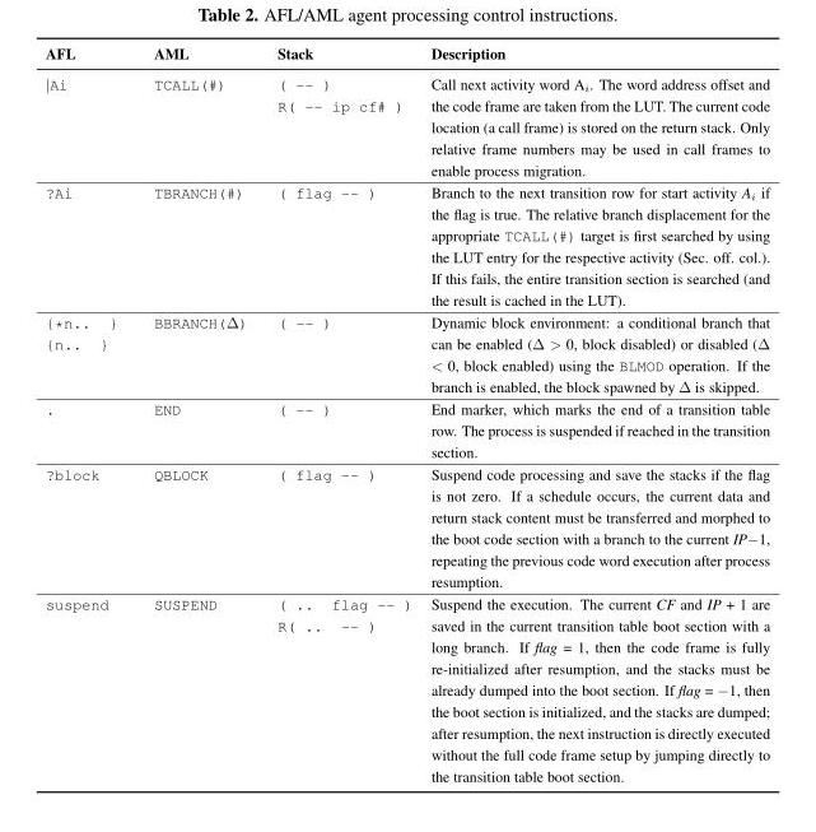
<table><thead><tr><td>AFL</td><td>AML</td><td>Stack</td><td>Description</td></tr></thead><tbody><tr><td>|Ai</td><td>TCALL(#)</td><td>( -- ) R( -- ip cf# )</td><td>Call next activity word A<sub>i</sub>. The word address offset and the code frame are taken from the LUT. The current code location (a call frame) is stored on the return stack. Only relative frame numbers may be used in call frames to enable process migration.</td></tr><tr><td>?Ai</td><td>TBRANCH(#)</td><td>( flag -- )</td><td>Branch to the next transition row for start activity A<sub>i</sub> if the flag is true. The relative branch displacement for the appropriate TCALL(#) target is first searched by using the LUT entry for the respective activity (Sec. off. col.). If this fails, the entire transition section is searched (and the result is cached in the LUT).</td></tr><tr><td>{*n.. } {n.. }</td><td>BBRANCH(∆)</td><td>( -- )</td><td>Dynamic block environment: a conditional branch that can be enabled (∆ &gt; 0, block disabled) or disabled (∆ &lt; 0, block enabled) using the BLMOD operation. If the branch is enabled, the block spawned by ∆ is skipped.</td></tr><tr><td>.</td><td>END</td><td>( -- )</td><td>End marker, which marks the end of a transition table row. The process is suspended if reached in the transition section.</td></tr><tr><td>?block</td><td>QBLOCK</td><td>( flag -- )</td><td>Suspend code processing and save the stacks if the flag is not zero. If a schedule occurs, the current data and return stack content must be transferred and morphed to the boot code section with a branch to the current IP−1, repeating the previous code word execution after process resumption.</td></tr><tr><td>suspend</td><td>SUSPEND</td><td>( .. flag -- ) R( .. -- )</td><td>Suspend the execution. The current CF and IP + 1 are saved in the current transition table boot section with a long branch. If flag = 1, then the code frame is fully re-initialized after resumption, and the stacks must be already dumped into the boot section. If flag = −1, then the boot section is initialized, and the stacks are dumped; after resumption, the next instruction is directly executed without the full code frame setup by jumping directly to the transition table boot section.</td></tr></tbody></table>